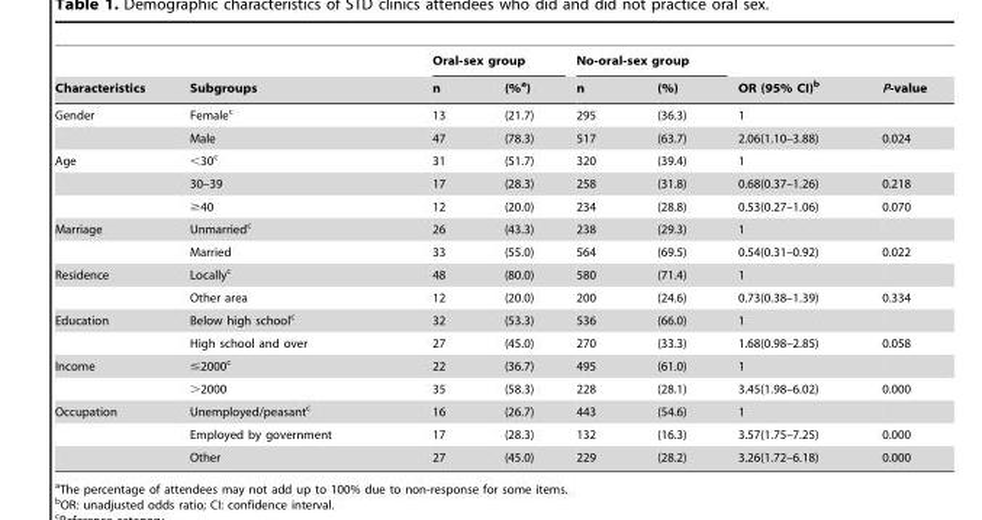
<table><thead><tr><td rowspan="2">Characteristics</td><td rowspan="2">Subgroups</td><td colspan="2">Oral-sex group</td><td colspan="2">No-oral-sex group</td><td rowspan="2">OR (95% CI)<sup>b</sup></td><td rowspan="2">P-value</td></tr><tr><td>n</td><td>(%<sup>a</sup>)</td><td>n</td><td>(%)</td></tr></thead><tbody><tr><td rowspan="2">Gender</td><td>Female<sup>c</sup></td><td>13</td><td>(21.7)</td><td>295</td><td>(36.3)</td><td>1</td><td></td></tr><tr><td>Male</td><td>47</td><td>(78.3)</td><td>517</td><td>(63.7)</td><td>2.06(1.10–3.88)</td><td>0.024</td></tr><tr><td rowspan="3">Age</td><td>&lt;30<sup>c</sup></td><td>31</td><td>(51.7)</td><td>320</td><td>(39.4)</td><td>1</td><td></td></tr><tr><td>30–39</td><td>17</td><td>(28.3)</td><td>258</td><td>(31.8)</td><td>0.68(0.37–1.26)</td><td>0.218</td></tr><tr><td>≥40</td><td>12</td><td>(20.0)</td><td>234</td><td>(28.8)</td><td>0.53(0.27–1.06)</td><td>0.070</td></tr><tr><td rowspan="2">Marriage</td><td>Unmarried<sup>c</sup></td><td>26</td><td>(43.3)</td><td>238</td><td>(29.3)</td><td>1</td><td></td></tr><tr><td>Married</td><td>33</td><td>(55.0)</td><td>564</td><td>(69.5)</td><td>0.54(0.31–0.92)</td><td>0.022</td></tr><tr><td rowspan="2">Residence</td><td>Locally<sup>c</sup></td><td>48</td><td>(80.0)</td><td>580</td><td>(71.4)</td><td>1</td><td></td></tr><tr><td>Other area</td><td>12</td><td>(20.0)</td><td>200</td><td>(24.6)</td><td>0.73(0.38–1.39)</td><td>0.334</td></tr><tr><td rowspan="2">Education</td><td>Below high school<sup>c</sup></td><td>32</td><td>(53.3)</td><td>536</td><td>(66.0)</td><td>1</td><td></td></tr><tr><td>High school and over</td><td>27</td><td>(45.0)</td><td>270</td><td>(33.3)</td><td>1.68(0.98–2.85)</td><td>0.058</td></tr><tr><td rowspan="2">Income</td><td>≤2000<sup>c</sup></td><td>22</td><td>(36.7)</td><td>495</td><td>(61.0)</td><td>1</td><td></td></tr><tr><td>&gt;2000</td><td>35</td><td>(58.3)</td><td>228</td><td>(28.1)</td><td>3.45(1.98–6.02)</td><td>0.000</td></tr><tr><td rowspan="3">Occupation</td><td>Unemployed/peasant<sup>c</sup></td><td>16</td><td>(26.7)</td><td>443</td><td>(54.6)</td><td>1</td><td></td></tr><tr><td>Employed by government</td><td>17</td><td>(28.3)</td><td>132</td><td>(16.3)</td><td>3.57(1.75–7.25)</td><td>0.000</td></tr><tr><td>Other</td><td>27</td><td>(45.0)</td><td>229</td><td>(28.2)</td><td>3.26(1.72–6.18)</td><td>0.000</td></tr></tbody></table>